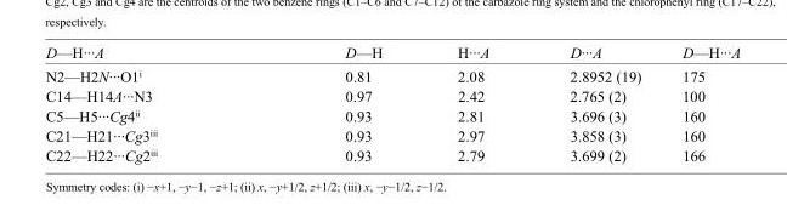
<table><tbody><tr><td>D—H···A</td><td>D—H</td><td>H···A</td><td>D···A</td><td>D—H···A</td></tr><tr><td>N2—H2N···O1<sup>i</sup></td><td>0.81</td><td>2.08</td><td>2.8952 (19)</td><td>175</td></tr><tr><td>C14—H14A···N3</td><td>0.97</td><td>2.42</td><td>2.765 (2)</td><td>100</td></tr><tr><td>C5—H5···Cg4<sup>ii</sup></td><td>0.93</td><td>2.81</td><td>3.696 (3)</td><td>160</td></tr><tr><td>C21—H21···Cg3<sup>iii</sup></td><td>0.93</td><td>2.97</td><td>3.858 (3)</td><td>160</td></tr><tr><td>C22—H22···Cg2<sup>iii</sup></td><td>0.93</td><td>2.79</td><td>3.699 (2)</td><td>166</td></tr></tbody></table>